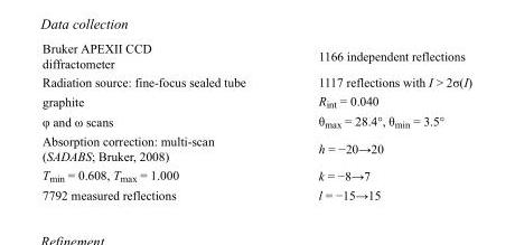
<table><tbody><tr><td>Bruker APEXII CCD diffractometer</td><td>1166 independent reflections</td></tr><tr><td>Radiation source: fine-focus sealed tube</td><td>1117 reflections with I &gt; 2σ(I)</td></tr><tr><td>graphite</td><td>R<sub>int</sub> = 0.040</td></tr><tr><td>φ and ω scans</td><td>θ<sub>max</sub> = 28.4°, θ<sub>min</sub> = 3.5°</td></tr><tr><td>Absorption correction: multi-scan (SADABS; Bruker, 2008)</td><td>h = −20→20</td></tr><tr><td>T<sub>min</sub> = 0.608, T<sub>max</sub> = 1.000</td><td>k = −8→7</td></tr><tr><td>7792 measured reflections</td><td>l = −15→15</td></tr></tbody></table>